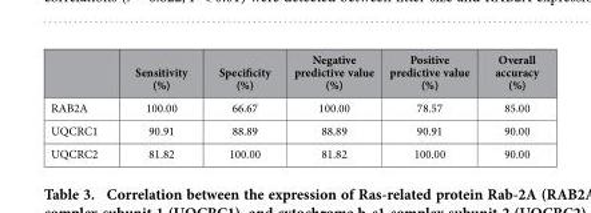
<table><thead><tr><td></td><td>Sensitivity (%)</td><td>Specificity (%)</td><td>Negative predictive value (%)</td><td>Positive predictive value (%)</td><td>Overall accuracy (%)</td></tr></thead><tbody><tr><td>RAB2A</td><td>100.00</td><td>66.67</td><td>100.00</td><td>78.57</td><td>85.00</td></tr><tr><td>UQCRC1</td><td>90.91</td><td>88.89</td><td>88.89</td><td>90.91</td><td>90.00</td></tr><tr><td>UQCRC2</td><td>81.82</td><td>100.00</td><td>81.82</td><td>100.00</td><td>90.00</td></tr></tbody></table>